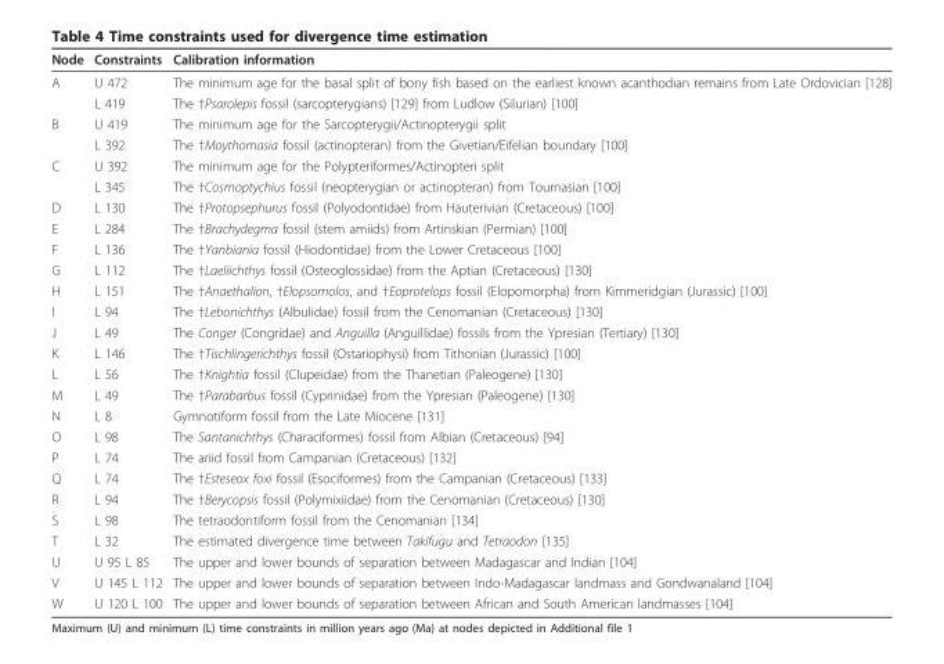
<table><thead><tr><td>Node</td><td>Constraints</td><td>Calibration information</td></tr></thead><tbody><tr><td rowspan="2">A</td><td>U 472</td><td>The minimum age for the basal split of bony fish based on the earliest known acanthodian remains from Late Ordovician [128]</td></tr><tr><td>L 419</td><td>The †Psarolepis fossil (sarcopterygians) [129] from Ludlow (Silurian) [100]</td></tr><tr><td rowspan="2">B</td><td>U 419</td><td>The minimum age for the Sarcopterygii/Actinopterygii split</td></tr><tr><td>L 392</td><td>The †Moythomasia fossil (actinopteran) from the Givetian/Eifelian boundary [100]</td></tr><tr><td rowspan="2">C</td><td>U 392</td><td>The minimum age for the Polypteriformes/Actinopteri split</td></tr><tr><td>L 345</td><td>The †Cosmoptychius fossil (neopterygian or actinopteran) from Tournasian [100]</td></tr><tr><td>D</td><td>L 130</td><td>The †Protopsephurus fossil (Polyodontidae) from Hauterivian (Cretaceous) [100]</td></tr><tr><td>E</td><td>L 284</td><td>The †Brachydegma fossil (stem amiids) from Artinskian (Permian) [100]</td></tr><tr><td>F</td><td>L 136</td><td>The †Yanbiania fossil (Hiodontidae) from the Lower Cretaceous [100]</td></tr><tr><td>G</td><td>L 112</td><td>The †Laeliichthys fossil (Osteoglossidae) from the Aptian (Cretaceous) [130]</td></tr><tr><td>H</td><td>L 151</td><td>The †Anaethalion, †Elopsomolos, and †Eoprotelops fossil (Elopomorpha) from Kimmeridgian (Jurassic) [100]</td></tr><tr><td>I</td><td>L 94</td><td>The †Lebonichthys (Albulidae) fossil from the Cenomanian (Cretaceous) [130]</td></tr><tr><td>J</td><td>L 49</td><td>The Conger (Congridae) and Anguilla (Anguillidae) fossils from the Ypresian (Tertiary) [130]</td></tr><tr><td>K</td><td>L 146</td><td>The †Tischlingerichthys fossil (Ostariophysi) from Tithonian (Jurassic) [100]</td></tr><tr><td>L</td><td>L 56</td><td>The †Knightia fossil (Clupeidae) from the Thanetian (Paleogene) [130]</td></tr><tr><td>M</td><td>L 49</td><td>The †Parabarbus fossil (Cyprinidae) from the Ypresian (Paleogene) [130]</td></tr><tr><td>N</td><td>L 8</td><td>Gymnotiform fossil from the Late Miocene [131]</td></tr><tr><td>O</td><td>L 98</td><td>The Santanichthys (Characiformes) fossil from Albian (Cretaceous) [94]</td></tr><tr><td>P</td><td>L 74</td><td>The ariid fossil from Campanian (Cretaceous) [132]</td></tr><tr><td>Q</td><td>L 74</td><td>The †Esteseox foxi fossil (Esociformes) from the Campanian (Cretaceous) [133]</td></tr><tr><td>R</td><td>L 94</td><td>The †Berycopsis fossil (Polymixiidae) from the Cenomanian (Cretaceous) [130]</td></tr><tr><td>S</td><td>L 98</td><td>The tetraodontiform fossil from the Cenomanian [134]</td></tr><tr><td>T</td><td>L 32</td><td>The estimated divergence time between Takifugu and Tetraodon [135]</td></tr><tr><td>U</td><td>U 95 L 85</td><td>The upper and lower bounds of separation between Madagascar and Indian [104]</td></tr><tr><td>V</td><td>U 145 L 112</td><td>The upper and lower bounds of separation between Indo-Madagascar landmass and Gondwanaland [104]</td></tr><tr><td>W</td><td>U 120 L 100</td><td>The upper and lower bounds of separation between African and South American landmasses [104]</td></tr></tbody></table>